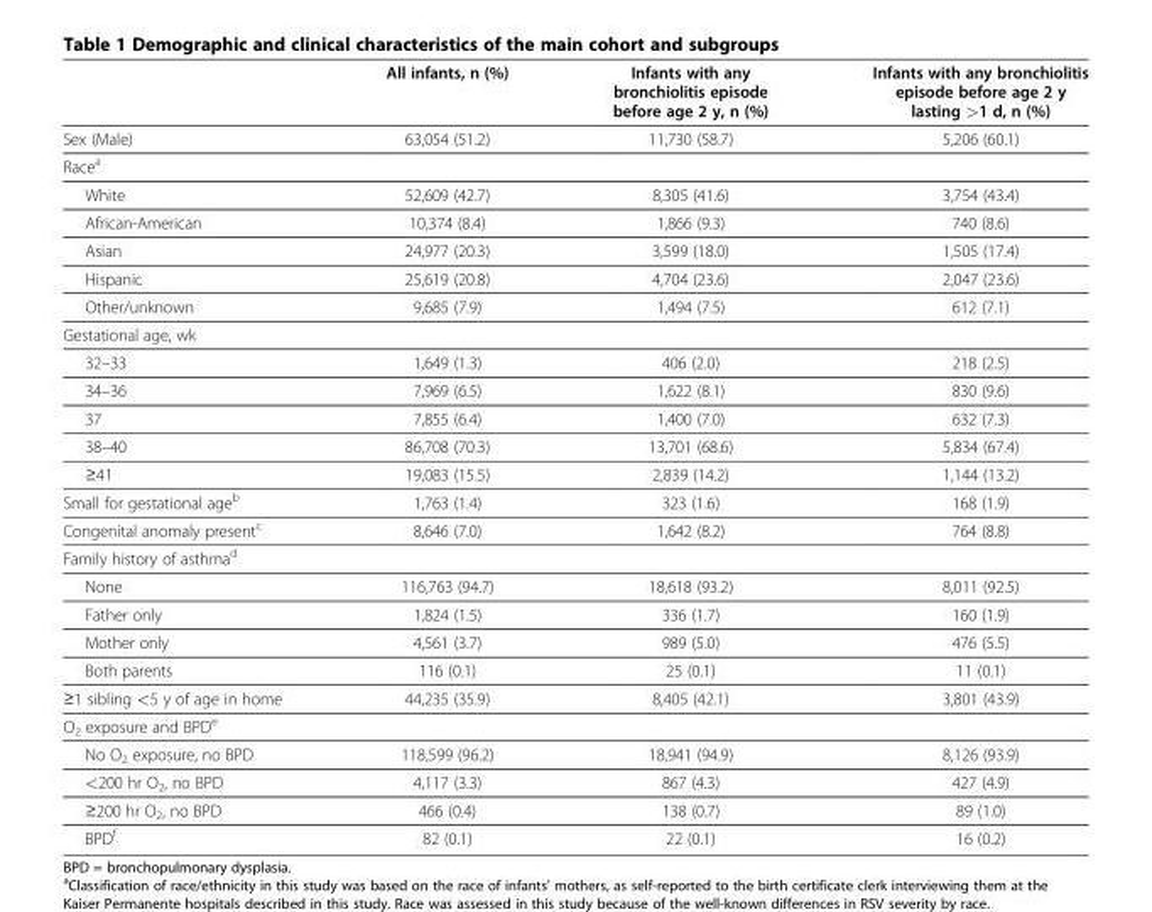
<table><thead><tr><td></td><td>All infants, n (%)</td><td>Infants with any bronchiolitis episode before age 2 y, n (%)</td><td>Infants with any bronchiolitis episode before age 2 y lasting &gt;1 d, n (%)</td></tr></thead><tbody><tr><td>Sex (Male)</td><td>63,054 (51.2)</td><td>11,730 (58.7)</td><td>5,206 (60.1)</td></tr><tr><td colspan="4">Race<sup>a</sup></td></tr><tr><td>White</td><td>52,609 (42.7)</td><td>8,305 (41.6)</td><td>3,754 (43.4)</td></tr><tr><td>African-American</td><td>10,374 (8.4)</td><td>1,866 (9.3)</td><td>740 (8.6)</td></tr><tr><td>Asian</td><td>24,977 (20.3)</td><td>3,599 (18.0)</td><td>1,505 (17.4)</td></tr><tr><td>Hispanic</td><td>25,619 (20.8)</td><td>4,704 (23.6)</td><td>2,047 (23.6)</td></tr><tr><td>Other/unknown</td><td>9,685 (7.9)</td><td>1,494 (7.5)</td><td>612 (7.1)</td></tr><tr><td colspan="4">Gestational age, wk</td></tr><tr><td>32–33</td><td>1,649 (1.3)</td><td>406 (2.0)</td><td>218 (2.5)</td></tr><tr><td>34–36</td><td>7,969 (6.5)</td><td>1,622 (8.1)</td><td>830 (9.6)</td></tr><tr><td>37</td><td>7,855 (6.4)</td><td>1,400 (7.0)</td><td>632 (7.3)</td></tr><tr><td>38–40</td><td>86,708 (70.3)</td><td>13,701 (68.6)</td><td>5,834 (67.4)</td></tr><tr><td>≥41</td><td>19,083 (15.5)</td><td>2,839 (14.2)</td><td>1,144 (13.2)</td></tr><tr><td>Small for gestational age<sup>b</sup></td><td>1,763 (1.4)</td><td>323 (1.6)</td><td>168 (1.9)</td></tr><tr><td>Congenital anomaly present<sup>c</sup></td><td>8,646 (7.0)</td><td>1,642 (8.2)</td><td>764 (8.8)</td></tr><tr><td colspan="4">Family history of asthma<sup>d</sup></td></tr><tr><td>None</td><td>116,763 (94.7)</td><td>18,618 (93.2)</td><td>8,011 (92.5)</td></tr><tr><td>Father only</td><td>1,824 (1.5)</td><td>336 (1.7)</td><td>160 (1.9)</td></tr><tr><td>Mother only</td><td>4,561 (3.7)</td><td>989 (5.0)</td><td>476 (5.5)</td></tr><tr><td>Both parents</td><td>116 (0.1)</td><td>25 (0.1)</td><td>11 (0.1)</td></tr><tr><td>≥1 sibling &lt;5 y of age in home</td><td>44,235 (35.9)</td><td>8,405 (42.1)</td><td>3,801 (43.9)</td></tr><tr><td colspan="4">O<sub>2</sub> exposure and BPD<sup>e</sup></td></tr><tr><td>No O<sub>2</sub> exposure, no BPD</td><td>118,599 (96.2)</td><td>18,941 (94.9)</td><td>8,126 (93.9)</td></tr><tr><td>&lt;200 hr O<sub>2</sub>, no BPD</td><td>4,117 (3.3)</td><td>867 (4.3)</td><td>427 (4.9)</td></tr><tr><td>≥200 hr O<sub>2</sub>, no BPD</td><td>466 (0.4)</td><td>138 (0.7)</td><td>89 (1.0)</td></tr><tr><td>BPD<sup>f</sup></td><td>82 (0.1)</td><td>22 (0.1)</td><td>16 (0.2)</td></tr></tbody></table>